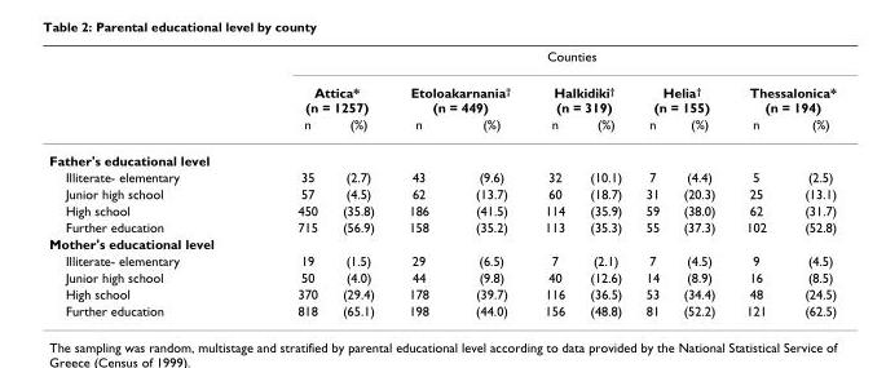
<table><thead><tr><td rowspan="3"></td><td colspan="10">Counties</td></tr><tr><td colspan="2">Attica* (n = 1257)</td><td colspan="2">Etoloakarnania† (n = 449)</td><td colspan="2">Halkidiki† (n = 319)</td><td colspan="2">Helia† (n = 155)</td><td colspan="2">Thessalonica* (n = 194)</td></tr><tr><td>n</td><td>(%)</td><td>n</td><td>(%)</td><td>n</td><td>(%)</td><td>n</td><td>(%)</td><td>n</td><td>(%)</td></tr></thead><tbody><tr><td colspan="11">Father&#x27;s educational level</td></tr><tr><td>Illiterate- elementary</td><td>35</td><td>(2.7)</td><td>43</td><td>(9.6)</td><td>32</td><td>(10.1)</td><td>7</td><td>(4.4)</td><td>5</td><td>(2.5)</td></tr><tr><td>Junior high school</td><td>57</td><td>(4.5)</td><td>62</td><td>(13.7)</td><td>60</td><td>(18.7)</td><td>31</td><td>(20.3)</td><td>25</td><td>(13.1)</td></tr><tr><td>High school</td><td>450</td><td>(35.8)</td><td>186</td><td>(41.5)</td><td>114</td><td>(35.9)</td><td>59</td><td>(38.0)</td><td>62</td><td>(31.7)</td></tr><tr><td>Further education</td><td>715</td><td>(56.9)</td><td>158</td><td>(35.2)</td><td>113</td><td>(35.3)</td><td>55</td><td>(37.3)</td><td>102</td><td>(52.8)</td></tr><tr><td colspan="11">Mother&#x27;s educational level</td></tr><tr><td>Illiterate- elementary</td><td>19</td><td>(1.5)</td><td>29</td><td>(6.5)</td><td>7</td><td>(2.1)</td><td>7</td><td>(4.5)</td><td>9</td><td>(4.5)</td></tr><tr><td>Junior high school</td><td>50</td><td>(4.0)</td><td>44</td><td>(9.8)</td><td>40</td><td>(12.6)</td><td>14</td><td>(8.9)</td><td>16</td><td>(8.5)</td></tr><tr><td>High school</td><td>370</td><td>(29.4)</td><td>178</td><td>(39.7)</td><td>116</td><td>(36.5)</td><td>53</td><td>(34.4)</td><td>48</td><td>(24.5)</td></tr><tr><td>Further education</td><td>818</td><td>(65.1)</td><td>198</td><td>(44.0)</td><td>156</td><td>(48.8)</td><td>81</td><td>(52.2)</td><td>121</td><td>(62.5)</td></tr></tbody></table>